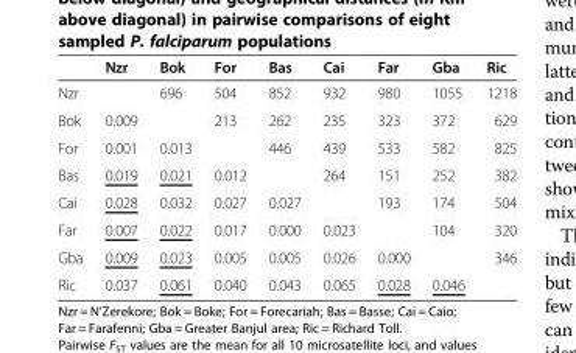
<table><thead><tr><td></td><td>Nzr</td><td>Bok</td><td>For</td><td>Bas</td><td>Cai</td><td>Far</td><td>Gba</td><td>Ric</td></tr></thead><tbody><tr><td>Nzr</td><td></td><td>696</td><td>504</td><td>852</td><td>932</td><td>980</td><td>1055</td><td>1218</td></tr><tr><td>Bok</td><td>0.009</td><td></td><td>213</td><td>262</td><td>235</td><td>323</td><td>372</td><td>629</td></tr><tr><td>For</td><td>0.001</td><td>0.013</td><td></td><td>446</td><td>439</td><td>533</td><td>582</td><td>825</td></tr><tr><td>Bas</td><td>0.019</td><td>0.021</td><td>0.012</td><td></td><td>264</td><td>151</td><td>252</td><td>382</td></tr><tr><td>Cai</td><td>0.028</td><td>0.032</td><td>0.027</td><td>0.027</td><td></td><td>193</td><td>174</td><td>504</td></tr><tr><td>Far</td><td>0.007</td><td>0.022</td><td>0.017</td><td>0.000</td><td>0.023</td><td></td><td>104</td><td>320</td></tr><tr><td>Gba</td><td>0.009</td><td>0.023</td><td>0.005</td><td>0.005</td><td>0.026</td><td>0.000</td><td></td><td>346</td></tr><tr><td>Ric</td><td>0.037</td><td>0.061</td><td>0.040</td><td>0.043</td><td>0.065</td><td>0.028</td><td>0.046</td><td></td></tr></tbody></table>